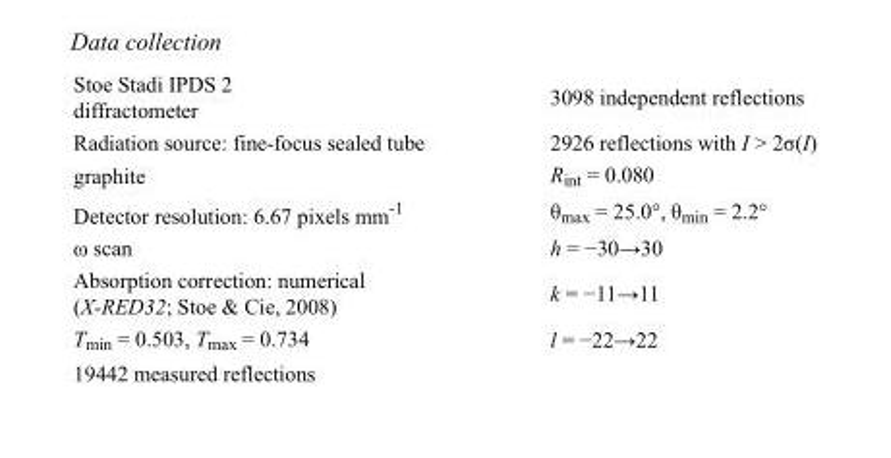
<table><tbody><tr><td>Stoe Stadi IPDS 2 diffractometer</td><td>3098 independent reflections</td></tr><tr><td>Radiation source: fine-focus sealed tube</td><td>2926 reflections with I &gt; 2σ(I)</td></tr><tr><td>graphite</td><td>R<sub>int</sub> = 0.080</td></tr><tr><td>Detector resolution: 6.67 pixels mm<sup>-1</sup></td><td>θ<sub>max</sub> = 25.0°, θ<sub>min</sub> = 2.2°</td></tr><tr><td>ω scan</td><td>h = −30→30</td></tr><tr><td>Absorption correction: numerical (X-RED32; Stoe &amp; Cie, 2008)</td><td>k = −11→11</td></tr><tr><td>T<sub>min</sub> = 0.503, T<sub>max</sub> = 0.734</td><td>l = −22→22</td></tr><tr><td>19442 measured reflections</td><td></td></tr></tbody></table>